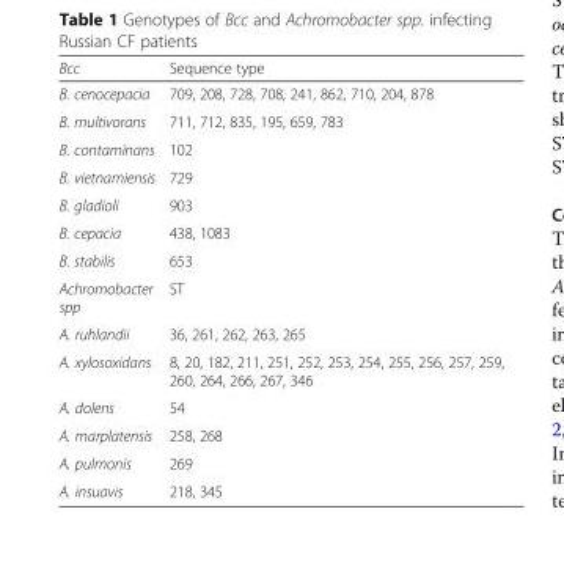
<table><thead><tr><td>Bcc</td><td>Sequence type</td></tr></thead><tbody><tr><td>B. cenocepacia</td><td>709, 208, 728, 708, 241, 862, 710, 204, 878</td></tr><tr><td>B. multivorans</td><td>711, 712, 835, 195, 659, 783</td></tr><tr><td>B. contaminans</td><td>102</td></tr><tr><td>B. vietnamiensis</td><td>729</td></tr><tr><td>B. gladioli</td><td>903</td></tr><tr><td>B. cepacia</td><td>438, 1083</td></tr><tr><td>B. stabilis</td><td>653</td></tr><tr><td>Achromobacter spp</td><td>ST</td></tr><tr><td>A. ruhlandii</td><td>36, 261, 262, 263, 265</td></tr><tr><td>A. xylosoxidans</td><td>8, 20, 182, 211, 251, 252, 253, 254, 255, 256, 257, 259, 260, 264, 266, 267, 346</td></tr><tr><td>A. dolens</td><td>54</td></tr><tr><td>A. marplatensis</td><td>258, 268</td></tr><tr><td>A. pulmonis</td><td>269</td></tr><tr><td>A. insuavis</td><td>218, 345</td></tr></tbody></table>